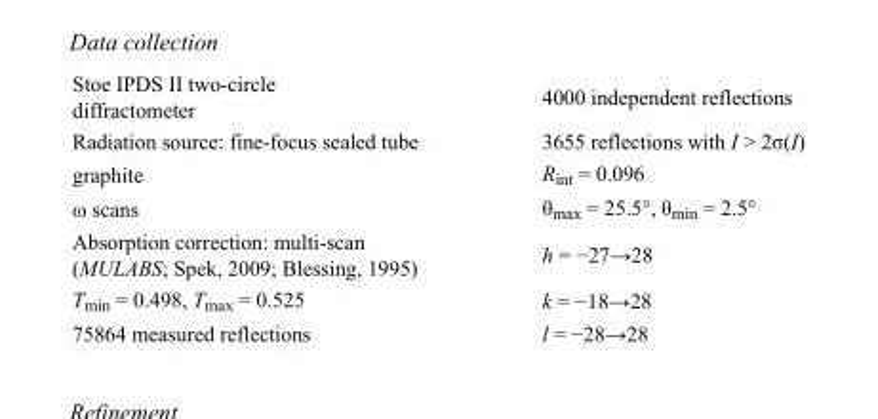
<table><tbody><tr><td>Stoe IPDS II two-circle diffractometer</td><td>4000 independent reflections</td></tr><tr><td>Radiation source: fine-focus sealed tube</td><td>3655 reflections with I &gt; 2σ(I)</td></tr><tr><td>graphite</td><td>R<sub>int</sub> = 0.096</td></tr><tr><td>ω scans</td><td>θ<sub>max</sub> = 25.5°, θ<sub>min</sub> = 2.5°</td></tr><tr><td>Absorption correction: multi-scan (MULABS; Spek, 2009; Blessing, 1995)</td><td>h = −27→28</td></tr><tr><td>T<sub>min</sub> = 0.498, T<sub>max</sub> = 0.525</td><td>k = −18→28</td></tr><tr><td>75864 measured reflections</td><td>l = −28→28</td></tr></tbody></table>